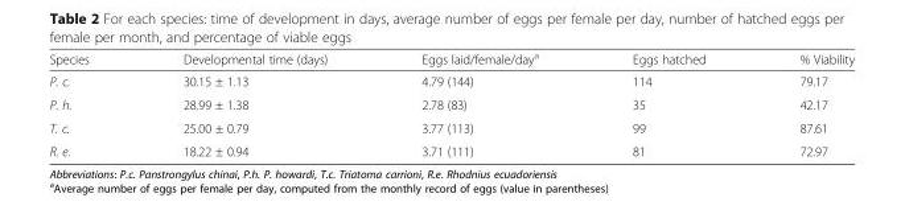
<table><thead><tr><td>Species</td><td>Developmental time (days)</td><td>Eggs laid/female/day<sup>a</sup></td><td>Eggs hatched</td><td>% Viability</td></tr></thead><tbody><tr><td>P. c.</td><td>30.15 ± 1.13</td><td>4.79 (144)</td><td>114</td><td>79.17</td></tr><tr><td>P. h.</td><td>28.99 ± 1.38</td><td>2.78 (83)</td><td>35</td><td>42.17</td></tr><tr><td>T. c.</td><td>25.00 ± 0.79</td><td>3.77 (113)</td><td>99</td><td>87.61</td></tr><tr><td>R. e.</td><td>18.22 ± 0.94</td><td>3.71 (111)</td><td>81</td><td>72.97</td></tr></tbody></table>